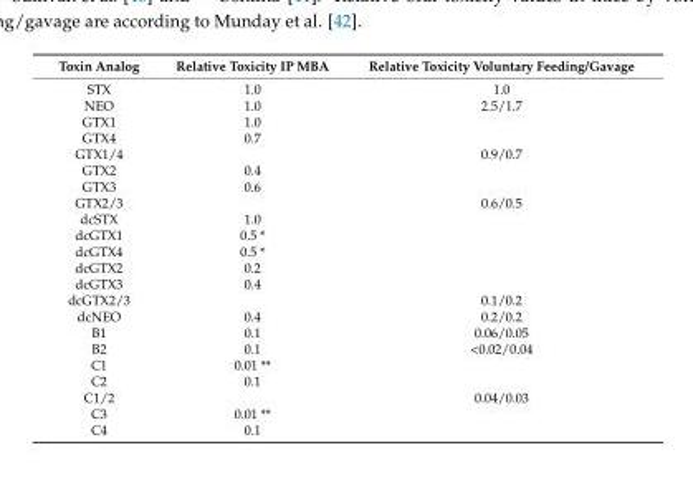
<table><thead><tr><td>Toxin Analog</td><td>Relative Toxicity IP MBA</td><td>Relative Toxicity Voluntary Feeding/Gavage</td></tr></thead><tbody><tr><td>STX</td><td>1.0</td><td>1.0</td></tr><tr><td>NEO</td><td>1.0</td><td>2.5/1.7</td></tr><tr><td>GTX1</td><td>1.0</td><td></td></tr><tr><td>GTX4</td><td>0.7</td><td></td></tr><tr><td>GTX1/4</td><td></td><td>0.9/0.7</td></tr><tr><td>GTX2</td><td>0.4</td><td></td></tr><tr><td>GTX3</td><td>0.6</td><td></td></tr><tr><td>GTX2/3</td><td></td><td>0.6/0.5</td></tr><tr><td>dcSTX</td><td>1.0</td><td></td></tr><tr><td>dcGTX1</td><td>0.5 *</td><td></td></tr><tr><td>dcGTX4</td><td>0.5 *</td><td></td></tr><tr><td>dcGTX2</td><td>0.2</td><td></td></tr><tr><td>dcGTX3</td><td>0.4</td><td></td></tr><tr><td>dcGTX2/3</td><td></td><td>0.1/0.2</td></tr><tr><td>dcNEO</td><td>0.4</td><td>0.2/0.2</td></tr><tr><td>B1</td><td>0.1</td><td>0.06/0.05</td></tr><tr><td>B2</td><td>0.1</td><td>&lt;0.02/0.04</td></tr><tr><td>C1</td><td>0.01 **</td><td></td></tr><tr><td>C2</td><td>0.1</td><td></td></tr><tr><td>C1/2</td><td></td><td>0.04/0.03</td></tr><tr><td>C3</td><td>0.01 **</td><td></td></tr><tr><td>C4</td><td>0.1</td><td></td></tr></tbody></table>